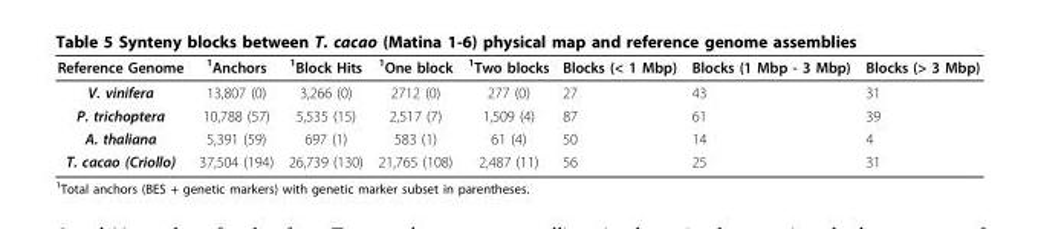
<table><thead><tr><td>Reference Genome</td><td><sup>1</sup>Anchors</td><td><sup>1</sup>Block Hits</td><td><sup>1</sup>One block</td><td><sup>1</sup>Two blocks</td><td>Blocks (&lt; 1 Mbp)</td><td>Blocks (1 Mbp - 3 Mbp)</td><td>Blocks (&gt; 3 Mbp)</td></tr></thead><tbody><tr><td>V. vinifera</td><td>13,807 (0)</td><td>3,266 (0)</td><td>2712 (0)</td><td>277 (0)</td><td>27</td><td>43</td><td>31</td></tr><tr><td>P. trichoptera</td><td>10,788 (57)</td><td>5,535 (15)</td><td>2,517 (7)</td><td>1,509 (4)</td><td>87</td><td>61</td><td>39</td></tr><tr><td>A. thaliana</td><td>5,391 (59)</td><td>697 (1)</td><td>583 (1)</td><td>61 (4)</td><td>50</td><td>14</td><td>4</td></tr><tr><td>T. cacao (Criollo)</td><td>37,504 (194)</td><td>26,739 (130)</td><td>21,765 (108)</td><td>2,487 (11)</td><td>56</td><td>25</td><td>31</td></tr></tbody></table>